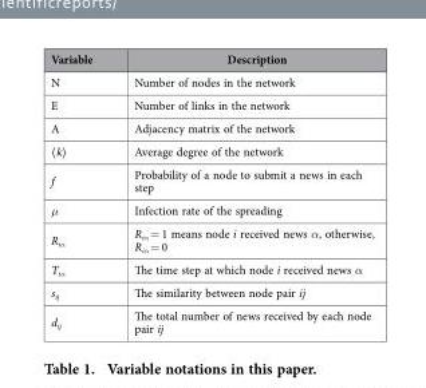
<table><thead><tr><td>Variable</td><td>Description</td></tr></thead><tbody><tr><td>N</td><td>Number of nodes in the network</td></tr><tr><td>E</td><td>Number of links in the network</td></tr><tr><td>A</td><td>Adjacency matrix of the network</td></tr><tr><td>〈 k〉</td><td>Average degree of the network</td></tr><tr><td>f</td><td>Probability of a node to submit a news in each step</td></tr><tr><td>μ</td><td>Infection rate of the spreading</td></tr><tr><td>R<sub>iα</sub></td><td>R<sub>iα</sub> = 1 means node i received news α, otherwise, R<sub>iα</sub> = 0</td></tr><tr><td>T<sub>iα</sub></td><td>The time step at which node i received news α</td></tr><tr><td>s<sub>ij</sub></td><td>The similarity between node pair ij</td></tr><tr><td>d<sub>ij</sub></td><td>The total number of news received by each node pair ij</td></tr></tbody></table>